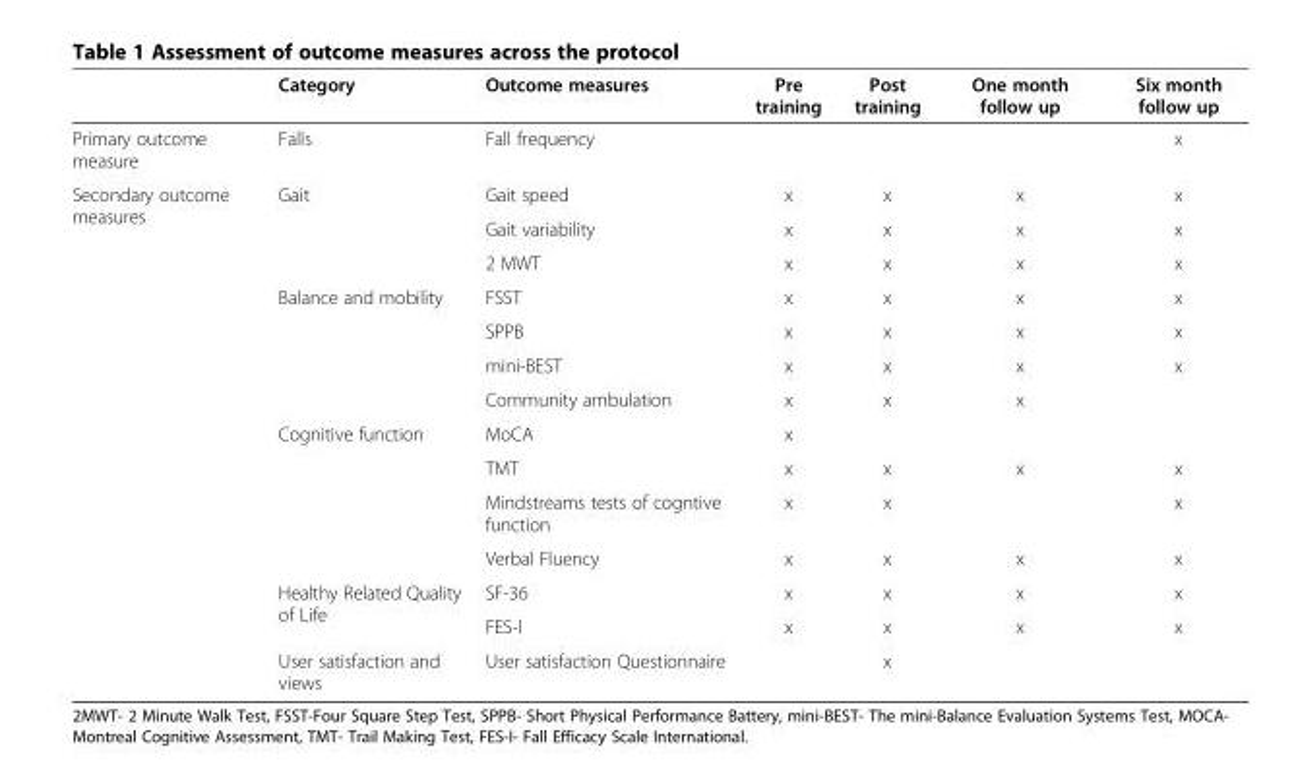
<table><thead><tr><td></td><td>Category</td><td>Outcome measures</td><td>Pre training</td><td>Post training</td><td>One month follow up</td><td>Six month follow up</td></tr></thead><tbody><tr><td>Primary outcome measure</td><td>Falls</td><td>Fall frequency</td><td></td><td></td><td></td><td>x</td></tr><tr><td rowspan="14">Secondary outcome measures</td><td rowspan="3">Gait</td><td>Gait speed</td><td>x</td><td>x</td><td>x</td><td>x</td></tr><tr><td>Gait variability</td><td>x</td><td>x</td><td>x</td><td>x</td></tr><tr><td>2 MWT</td><td>x</td><td>x</td><td>x</td><td>x</td></tr><tr><td rowspan="4">Balance and mobility</td><td>FSST</td><td>x</td><td>x</td><td>x</td><td>x</td></tr><tr><td>SPPB</td><td>x</td><td>x</td><td>x</td><td>x</td></tr><tr><td>mini-BEST</td><td>x</td><td>x</td><td>x</td><td>x</td></tr><tr><td>Community ambulation</td><td>x</td><td>x</td><td>x</td><td></td></tr><tr><td rowspan="4">Cognitive function</td><td>MoCA</td><td>x</td><td></td><td></td><td></td></tr><tr><td>TMT</td><td>x</td><td>x</td><td>x</td><td>x</td></tr><tr><td>Mindstreams tests of cogntive function</td><td>x</td><td>x</td><td></td><td>x</td></tr><tr><td>Verbal Fluency</td><td>x</td><td>x</td><td>x</td><td>x</td></tr><tr><td rowspan="2">Healthy Related Quality of Life</td><td>SF-36</td><td>x</td><td>x</td><td>x</td><td>x</td></tr><tr><td>FES-I</td><td>x</td><td>x</td><td>x</td><td>x</td></tr><tr><td>User satisfaction and views</td><td>User satisfaction Questionnaire</td><td></td><td>x</td><td></td><td></td></tr></tbody></table>